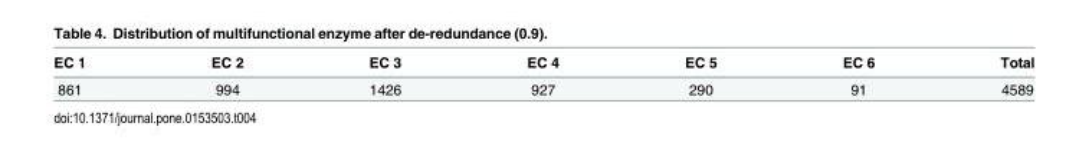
<table><thead><tr><td>EC 1</td><td>EC 2</td><td>EC 3</td><td>EC 4</td><td>EC 5</td><td>EC 6</td><td>Total</td></tr></thead><tbody><tr><td>861</td><td>994</td><td>1426</td><td>927</td><td>290</td><td>91</td><td>4589</td></tr></tbody></table>